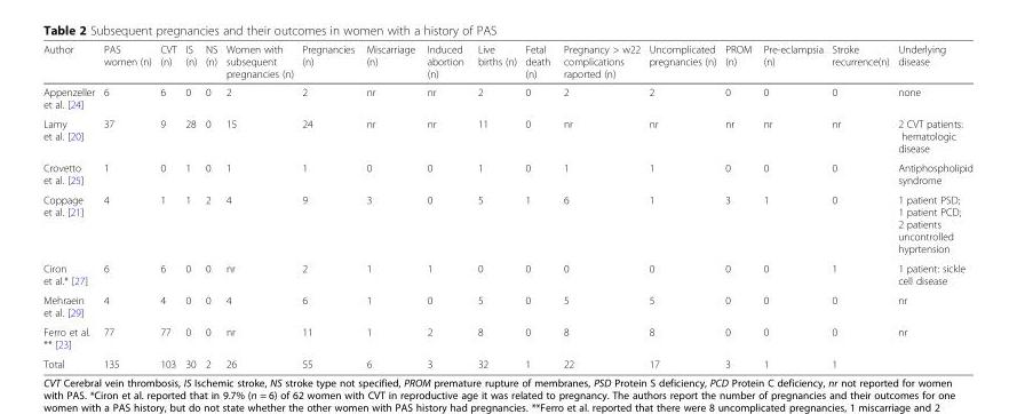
<table><thead><tr><td>Author</td><td>PAS women (n)</td><td>CVT (n)</td><td>IS (n)</td><td>NS (n)</td><td>Women with subsequent pregnancies (n)</td><td>Pregnancies (n)</td><td>Miscarriage (n)</td><td>Induced abortion (n)</td><td>Live births (n)</td><td>Fetal death (n)</td><td>Pregnancy &gt; w22 complications raported (n)</td><td>Uncomplicated pregnancies (n)</td><td>PROM (n)</td><td>Pre-eclampsia (n)</td><td>Stroke recurrence(n)</td><td>Underlying disease</td></tr></thead><tbody><tr><td>Appenzeller et al. [24]</td><td>6</td><td>6</td><td>0</td><td>0</td><td>2</td><td>2</td><td>nr</td><td>nr</td><td>2</td><td>0</td><td>2</td><td>2</td><td>0</td><td>0</td><td>0</td><td>none</td></tr><tr><td>Lamy et al. [20]</td><td>37</td><td>9</td><td>28</td><td>0</td><td>15</td><td>24</td><td>nr</td><td>nr</td><td>11</td><td>0</td><td>nr</td><td>nr</td><td>nr</td><td>nr</td><td>nr</td><td>2 CVT patients: hematologic disease</td></tr><tr><td>Crovetto et al. [25]</td><td>1</td><td>0</td><td>1</td><td>0</td><td>1</td><td>1</td><td>0</td><td>0</td><td>1</td><td>0</td><td>1</td><td>1</td><td>0</td><td>0</td><td>0</td><td>Antiphospholipid syndrome</td></tr><tr><td>Coppage et al. [21]</td><td>4</td><td>1</td><td>1</td><td>2</td><td>4</td><td>9</td><td>3</td><td>0</td><td>5</td><td>1</td><td>6</td><td>1</td><td>3</td><td>1</td><td>0</td><td>1 patient PSD; 1 patient PCD; 2 patients uncontrolled hyprtension</td></tr><tr><td>Ciron et al.* [27]</td><td>6</td><td>6</td><td>0</td><td>0</td><td>nr</td><td>2</td><td>1</td><td>1</td><td>0</td><td>0</td><td>0</td><td>0</td><td>0</td><td>0</td><td>1</td><td>1 patient: sickle cell disease</td></tr><tr><td>Mehraein et al. [29]</td><td>4</td><td>4</td><td>0</td><td>0</td><td>4</td><td>6</td><td>1</td><td>0</td><td>5</td><td>0</td><td>5</td><td>5</td><td>0</td><td>0</td><td>0</td><td>nr</td></tr><tr><td>Ferro et al. ** [23]</td><td>77</td><td>77</td><td>0</td><td>0</td><td>nr</td><td>11</td><td>1</td><td>2</td><td>8</td><td>0</td><td>8</td><td>8</td><td>0</td><td>0</td><td>0</td><td>nr</td></tr><tr><td>Total</td><td>135</td><td>103</td><td>30</td><td>2</td><td>26</td><td>55</td><td>6</td><td>3</td><td>32</td><td>1</td><td>22</td><td>17</td><td>3</td><td>1</td><td>1</td><td></td></tr></tbody></table>